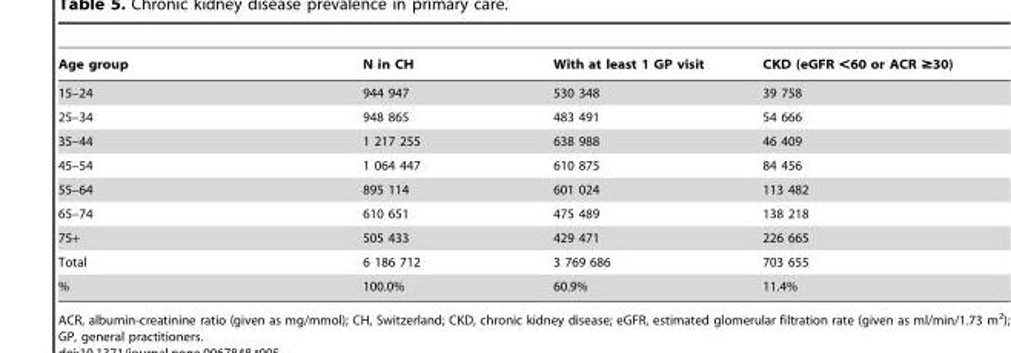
<table><thead><tr><td>Age group</td><td>N in CH</td><td>With at least 1 GP visit</td><td>CKD (eGFR &lt;60 or ACR ≥30)</td></tr></thead><tbody><tr><td>15–24</td><td>944 947</td><td>530 348</td><td>39 758</td></tr><tr><td>25–34</td><td>948 865</td><td>483 491</td><td>54 666</td></tr><tr><td>35–44</td><td>1 217 255</td><td>638 988</td><td>46 409</td></tr><tr><td>45–54</td><td>1 064 447</td><td>610 875</td><td>84 456</td></tr><tr><td>55–64</td><td>895 114</td><td>601 024</td><td>113 482</td></tr><tr><td>65–74</td><td>610 651</td><td>475 489</td><td>138 218</td></tr><tr><td>75+</td><td>505 433</td><td>429 471</td><td>226 665</td></tr><tr><td>Total</td><td>6 186 712</td><td>3 769 686</td><td>703 655</td></tr><tr><td>%</td><td>100.0%</td><td>60.9%</td><td>11.4%</td></tr></tbody></table>